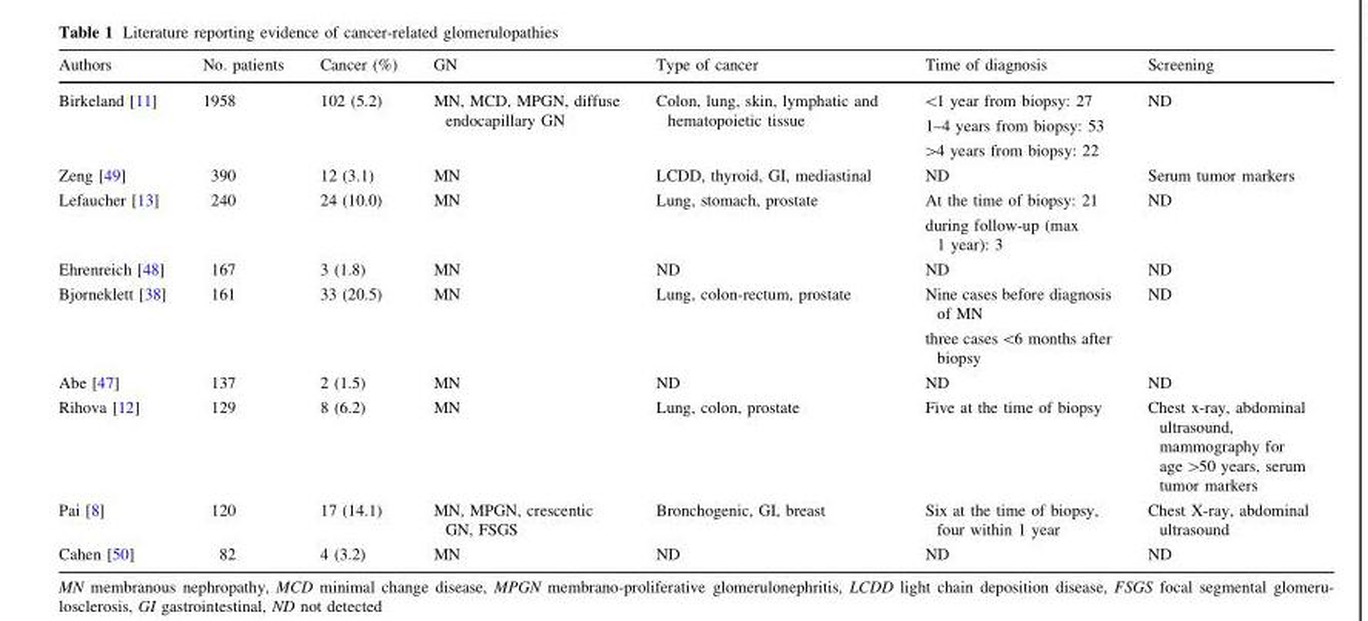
<table><thead><tr><td>Authors</td><td>No. patients</td><td>Cancer (%)</td><td>GN</td><td>Type of cancer</td><td>Time of diagnosis</td><td>Screening</td></tr></thead><tbody><tr><td>Birkeland [11]</td><td>1958</td><td>102 (5.2)</td><td>MN, MCD, MPGN, diffuse endocapillary GN</td><td>Colon, lung, skin, lymphatic and hematopoietic tissue</td><td>&lt;1 year from biopsy: 27 1–4 years from biopsy: 53 &gt;4 years from biopsy: 22</td><td>ND</td></tr><tr><td>Zeng [49]</td><td>390</td><td>12 (3.1)</td><td>MN</td><td>LCDD, thyroid, GI, mediastinal</td><td>ND</td><td>Serum tumor markers</td></tr><tr><td>Lefaucher [13]</td><td>240</td><td>24 (10.0)</td><td>MN</td><td>Lung, stomach, prostate</td><td>At the time of biopsy: 21 during follow-up (max 1 year): 3</td><td>ND</td></tr><tr><td>Ehrenreich [48]</td><td>167</td><td>3 (1.8)</td><td>MN</td><td>ND</td><td>ND</td><td>ND</td></tr><tr><td>Bjorneklett [38]</td><td>161</td><td>33 (20.5)</td><td>MN</td><td>Lung, colon-rectum, prostate</td><td>Nine cases before diagnosis of MN three cases &lt;6 months after biopsy</td><td>ND</td></tr><tr><td>Abe [47]</td><td>137</td><td>2 (1.5)</td><td>MN</td><td>ND</td><td>ND</td><td>ND</td></tr><tr><td>Rihova [12]</td><td>129</td><td>8 (6.2)</td><td>MN</td><td>Lung, colon, prostate</td><td>Five at the time of biopsy</td><td>Chest x-ray, abdominal ultrasound, mammography for age &gt;50 years, serum tumor markers</td></tr><tr><td>Pai [8]</td><td>120</td><td>17 (14.1)</td><td>MN, MPGN, crescentic GN, FSGS</td><td>Bronchogenic, GI, breast</td><td>Six at the time of biopsy, four within 1 year</td><td>Chest X-ray, abdominal ultrasound</td></tr><tr><td>Cahen [50]</td><td>82</td><td>4 (3.2)</td><td>MN</td><td>ND</td><td>ND</td><td>ND</td></tr></tbody></table>